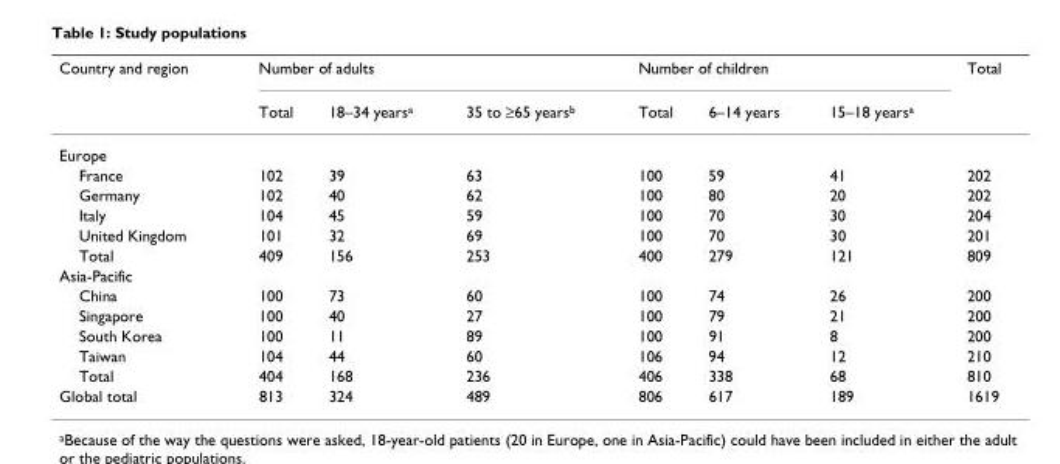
<table><thead><tr><td rowspan="2">Country and region</td><td colspan="3">Number of adults</td><td colspan="3">Number of children</td><td rowspan="2">Total</td></tr><tr><td>Total</td><td>18–34 yearsa</td><td>35 to ≥65 yearsb</td><td>Total</td><td>6–14 years</td><td>15–18 yearsa</td></tr></thead><tbody><tr><td colspan="8">Europe</td></tr><tr><td>France</td><td>102</td><td>39</td><td>63</td><td>100</td><td>59</td><td>41</td><td>202</td></tr><tr><td>Germany</td><td>102</td><td>40</td><td>62</td><td>100</td><td>80</td><td>20</td><td>202</td></tr><tr><td>Italy</td><td>104</td><td>45</td><td>59</td><td>100</td><td>70</td><td>30</td><td>204</td></tr><tr><td>United Kingdom</td><td>101</td><td>32</td><td>69</td><td>100</td><td>70</td><td>30</td><td>201</td></tr><tr><td>Total</td><td>409</td><td>156</td><td>253</td><td>400</td><td>279</td><td>121</td><td>809</td></tr><tr><td colspan="8">Asia-Pacific</td></tr><tr><td>China</td><td>100</td><td>73</td><td>60</td><td>100</td><td>74</td><td>26</td><td>200</td></tr><tr><td>Singapore</td><td>100</td><td>40</td><td>27</td><td>100</td><td>79</td><td>21</td><td>200</td></tr><tr><td>South Korea</td><td>100</td><td>11</td><td>89</td><td>100</td><td>91</td><td>8</td><td>200</td></tr><tr><td>Taiwan</td><td>104</td><td>44</td><td>60</td><td>106</td><td>94</td><td>12</td><td>210</td></tr><tr><td>Total</td><td>404</td><td>168</td><td>236</td><td>406</td><td>338</td><td>68</td><td>810</td></tr><tr><td>Global total</td><td>813</td><td>324</td><td>489</td><td>806</td><td>617</td><td>189</td><td>1619</td></tr></tbody></table>